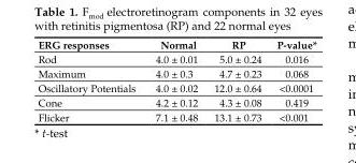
<table><thead><tr><td>ERG responses</td><td>Normal</td><td>RP</td><td>P-value*</td></tr></thead><tbody><tr><td>Rod</td><td>4.0 ± 0.01</td><td>5.0 ± 0.24</td><td>0.016</td></tr><tr><td>Maximum</td><td>4.0 ± 0.3</td><td>4.7 ± 0.23</td><td>0.068</td></tr><tr><td>Oscillatory Potentials</td><td>4.0 ± 0.02</td><td>12.0 ± 0.64</td><td>&lt;0.0001</td></tr><tr><td>Cone</td><td>4.2 ± 0.12</td><td>4.3 ± 0.08</td><td>0.419</td></tr><tr><td>Flicker</td><td>7.1 ± 0.48</td><td>13.1 ± 0.73</td><td>&lt;0.001</td></tr></tbody></table>